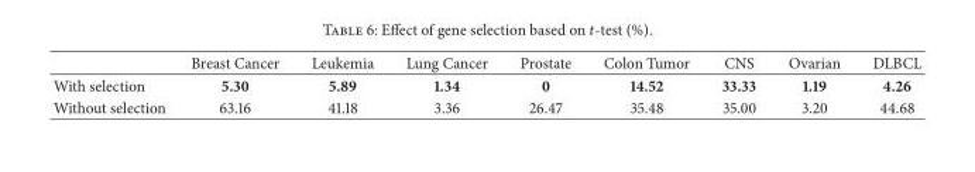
<table><thead><tr><td></td><td>Breast Cancer</td><td>Leukemia</td><td>Lung Cancer</td><td>Prostate</td><td>Colon Tumor</td><td>CNS</td><td>Ovarian</td><td>DLBCL</td></tr></thead><tbody><tr><td>With selection</td><td>5.30</td><td>5.89</td><td>1.34</td><td>0</td><td>14.52</td><td>33.33</td><td>1.19</td><td>4.26</td></tr><tr><td>Without selection</td><td>63.16</td><td>41.18</td><td>3.36</td><td>26.47</td><td>35.48</td><td>35.00</td><td>3.20</td><td>44.68</td></tr></tbody></table>